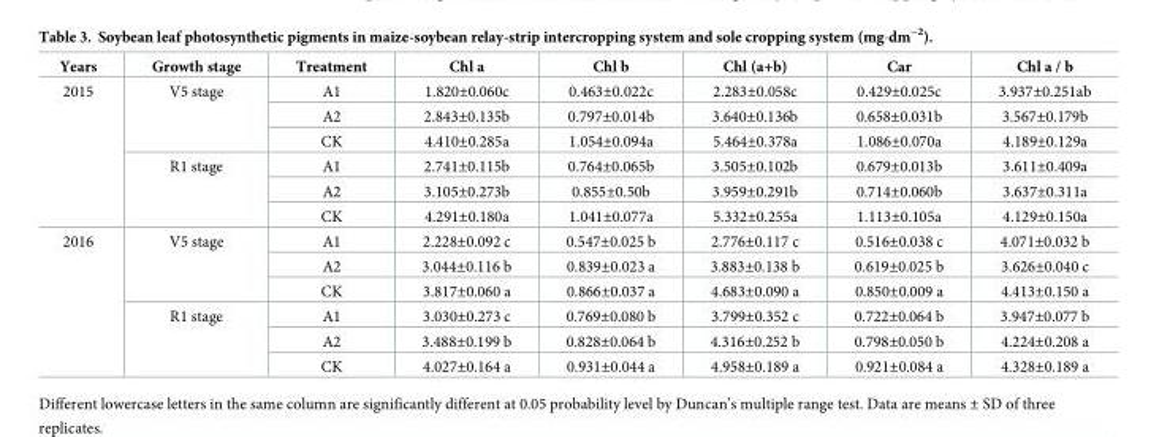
<table><thead><tr><td>Years</td><td>Growth stage</td><td>Treatment</td><td>Chl a</td><td>Chl b</td><td>Chl (a+b)</td><td>Car</td><td>Chl a / b</td></tr></thead><tbody><tr><td rowspan="6">2015</td><td rowspan="3">V5 stage</td><td>A1</td><td>1.820±0.060c</td><td>0.463±0.022c</td><td>2.283±0.058c</td><td>0.429±0.025c</td><td>3.937±0.251ab</td></tr><tr><td>A2</td><td>2.843±0.135b</td><td>0.797±0.014b</td><td>3.640±0.136b</td><td>0.658±0.031b</td><td>3.567±0.179b</td></tr><tr><td>CK</td><td>4.410±0.285a</td><td>1.054±0.094a</td><td>5.464±0.378a</td><td>1.086±0.070a</td><td>4.189±0.129a</td></tr><tr><td rowspan="3">R1 stage</td><td>A1</td><td>2.741±0.115b</td><td>0.764±0.065b</td><td>3.505±0.102b</td><td>0.679±0.013b</td><td>3.611±0.409a</td></tr><tr><td>A2</td><td>3.105±0.273b</td><td>0.855±0.50b</td><td>3.959±0.291b</td><td>0.714±0.060b</td><td>3.637±0.311a</td></tr><tr><td>CK</td><td>4.291±0.180a</td><td>1.041±0.077a</td><td>5.332±0.255a</td><td>1.113±0.105a</td><td>4.129±0.150a</td></tr><tr><td rowspan="6">2016</td><td rowspan="3">V5 stage</td><td>A1</td><td>2.228±0.092 c</td><td>0.547±0.025 b</td><td>2.776±0.117 c</td><td>0.516±0.038 c</td><td>4.071±0.032 b</td></tr><tr><td>A2</td><td>3.044±0.116 b</td><td>0.839±0.023 a</td><td>3.883±0.138 b</td><td>0.619±0.025 b</td><td>3.626±0.040 c</td></tr><tr><td>CK</td><td>3.817±0.060 a</td><td>0.866±0.037 a</td><td>4.683±0.090 a</td><td>0.850±0.009 a</td><td>4.413±0.150 a</td></tr><tr><td rowspan="3">R1 stage</td><td>A1</td><td>3.030±0.273 c</td><td>0.769±0.080 b</td><td>3.799±0.352 c</td><td>0.722±0.064 b</td><td>3.947±0.077 b</td></tr><tr><td>A2</td><td>3.488±0.199 b</td><td>0.828±0.064 b</td><td>4.316±0.252 b</td><td>0.798±0.050 b</td><td>4.224±0.208 a</td></tr><tr><td>CK</td><td>4.027±0.164 a</td><td>0.931±0.044 a</td><td>4.958±0.189 a</td><td>0.921±0.084 a</td><td>4.328±0.189 a</td></tr></tbody></table>